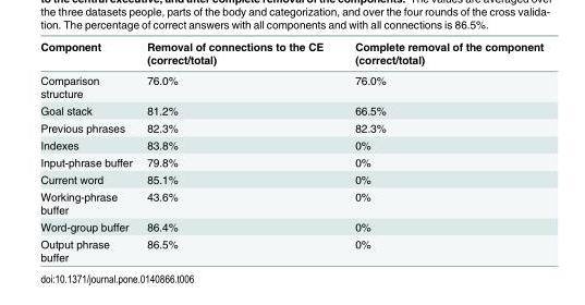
<table><thead><tr><td>Component</td><td>Removal of connections to the CE (correct/total)</td><td>Complete removal of the component (correct/total)</td></tr></thead><tbody><tr><td>Comparison structure</td><td>76.0%</td><td>76.0%</td></tr><tr><td>Goal stack</td><td>81.2%</td><td>66.5%</td></tr><tr><td>Previous phrases</td><td>82.3%</td><td>82.3%</td></tr><tr><td>Indexes</td><td>83.8%</td><td>0%</td></tr><tr><td>Input-phrase buffer</td><td>79.8%</td><td>0%</td></tr><tr><td>Current word</td><td>85.1%</td><td>0%</td></tr><tr><td>Working-phrase buffer</td><td>43.6%</td><td>0%</td></tr><tr><td>Word-group buffer</td><td>86.4%</td><td>0%</td></tr><tr><td>Output phrase buffer</td><td>86.5%</td><td>0%</td></tr></tbody></table>